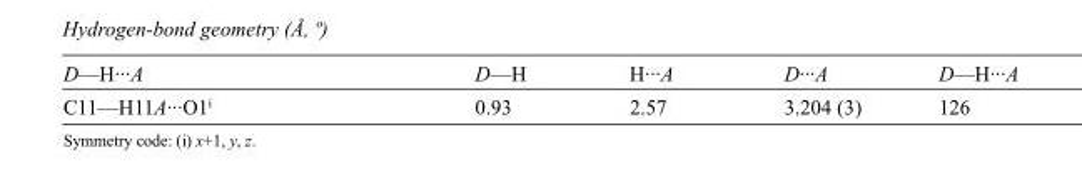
<table><tbody><tr><td>D—H···A</td><td>D—H</td><td>H···A</td><td>D···A</td><td>D—H···A</td></tr><tr><td>C11—H11A···O1<sup>i</sup></td><td>0.93</td><td>2.57</td><td>3.204 (3)</td><td>126</td></tr></tbody></table>